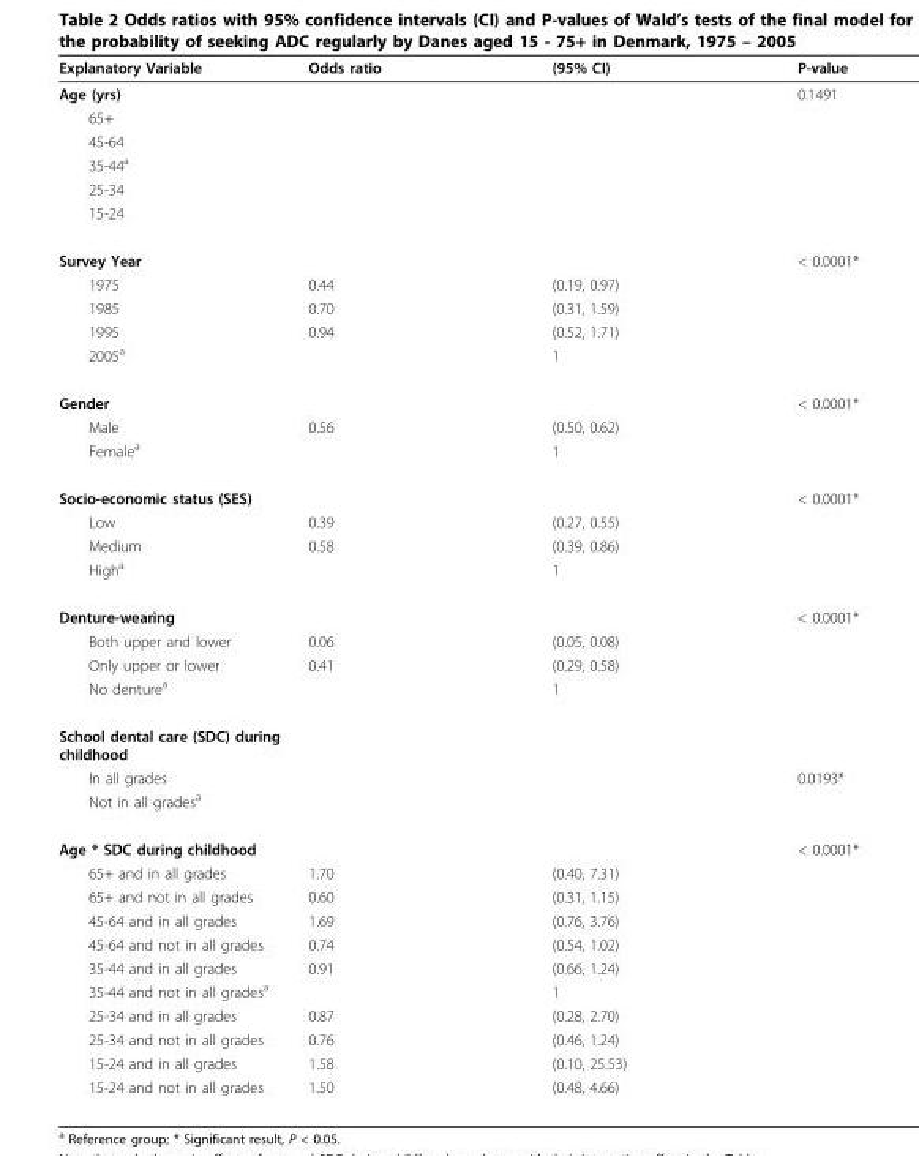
<table><thead><tr><td>Explanatory Variable</td><td>Odds ratio</td><td>(95% CI)</td><td>P-value</td></tr></thead><tbody><tr><td>Age (yrs)</td><td></td><td></td><td>0.1491</td></tr><tr><td colspan="4">65+</td></tr><tr><td colspan="4">45-64</td></tr><tr><td colspan="4">35-44<sup>a</sup></td></tr><tr><td colspan="4">25-34</td></tr><tr><td colspan="4">15-24</td></tr><tr><td>Survey Year</td><td></td><td></td><td>&lt; 0.0001*</td></tr><tr><td>1975</td><td>0.44</td><td>(0.19, 0.97)</td><td></td></tr><tr><td>1985</td><td>0.70</td><td>(0.31, 1.59)</td><td></td></tr><tr><td>1995</td><td>0.94</td><td>(0.52, 1.71)</td><td></td></tr><tr><td>2005<sup>a</sup></td><td></td><td>1</td><td></td></tr><tr><td>Gender</td><td></td><td></td><td>&lt; 0.0001*</td></tr><tr><td>Male</td><td>0.56</td><td>(0.50, 0.62)</td><td></td></tr><tr><td>Female<sup>a</sup></td><td></td><td>1</td><td></td></tr><tr><td>Socio-economic status (SES)</td><td></td><td></td><td>&lt; 0.0001*</td></tr><tr><td>Low</td><td>0.39</td><td>(0.27, 0.55)</td><td></td></tr><tr><td>Medium</td><td>0.58</td><td>(0.39, 0.86)</td><td></td></tr><tr><td>High<sup>a</sup></td><td></td><td>1</td><td></td></tr><tr><td>Denture-wearing</td><td></td><td></td><td>&lt; 0.0001*</td></tr><tr><td>Both upper and lower</td><td>0.06</td><td>(0.05, 0.08)</td><td></td></tr><tr><td>Only upper or lower</td><td>0.41</td><td>(0.29, 0.58)</td><td></td></tr><tr><td>No denture<sup>a</sup></td><td></td><td>1</td><td></td></tr><tr><td colspan="4">School dental care (SDC) during childhood</td></tr><tr><td>In all grades</td><td></td><td></td><td>0.0193*</td></tr><tr><td colspan="4">Not in all grades<sup>a</sup></td></tr><tr><td>Age * SDC during childhood</td><td></td><td></td><td>&lt; 0.0001*</td></tr><tr><td>65+ and in all grades</td><td>1.70</td><td>(0.40, 7.31)</td><td></td></tr><tr><td>65+ and not in all grades</td><td>0.60</td><td>(0.31, 1.15)</td><td></td></tr><tr><td>45-64 and in all grades</td><td>1.69</td><td>(0.76, 3.76)</td><td></td></tr><tr><td>45-64 and not in all grades</td><td>0.74</td><td>(0.54, 1.02)</td><td></td></tr><tr><td>35-44 and in all grades</td><td>0.91</td><td>(0.66, 1.24)</td><td></td></tr><tr><td>35-44 and not in all grades<sup>a</sup></td><td></td><td>1</td><td></td></tr><tr><td>25-34 and in all grades</td><td>0.87</td><td>(0.28, 2.70)</td><td></td></tr><tr><td>25-34 and not in all grades</td><td>0.76</td><td>(0.46, 1.24)</td><td></td></tr><tr><td>15-24 and in all grades</td><td>1.58</td><td>(0.10, 25.53)</td><td></td></tr><tr><td>15-24 and not in all grades</td><td>1.50</td><td>(0.48, 4.66)</td><td></td></tr></tbody></table>